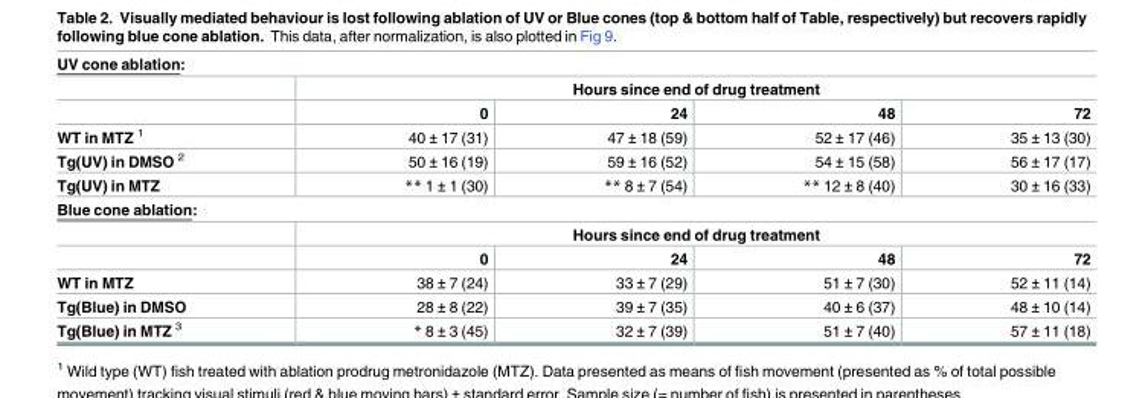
<table><tbody><tr><td colspan="5">UV cone ablation:</td></tr><tr><td></td><td colspan="4">Hours since end of drug treatment</td></tr><tr><td></td><td>0</td><td>24</td><td>48</td><td>72</td></tr><tr><td>WT in MTZ <sup>1</sup></td><td>40 ± 17 (31)</td><td>47 ± 18 (59)</td><td>52 ± 17 (46)</td><td>35 ± 13 (30)</td></tr><tr><td>Tg(UV) in DMSO <sup>2</sup></td><td>50 ± 16 (19)</td><td>59 ± 16 (52)</td><td>54 ± 15 (58)</td><td>56 ± 17 (17)</td></tr><tr><td>Tg(UV) in MTZ</td><td>** 1 ± 1 (30)</td><td>** 8 ± 7 (54)</td><td>** 12 ± 8 (40)</td><td>30 ± 16 (33)</td></tr><tr><td colspan="5">Blue cone ablation:</td></tr><tr><td></td><td colspan="4">Hours since end of drug treatment</td></tr><tr><td></td><td>0</td><td>24</td><td>48</td><td>72</td></tr><tr><td>WT in MTZ</td><td>38 ± 7 (24)</td><td>33 ± 7 (29)</td><td>51 ± 7 (30)</td><td>52 ± 11 (14)</td></tr><tr><td>Tg(Blue) in DMSO</td><td>28 ± 8 (22)</td><td>39 ± 7 (35)</td><td>40 ± 6 (37)</td><td>48 ± 10 (14)</td></tr><tr><td>Tg(Blue) in MTZ <sup>3</sup></td><td>* 8 ± 3 (45)</td><td>32 ± 7 (39)</td><td>51 ± 7 (40)</td><td>57 ± 11 (18)</td></tr></tbody></table>